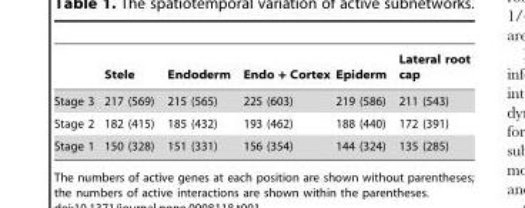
<table><thead><tr><td></td><td>Stele</td><td>Endoderm</td><td>Endo + Cortex</td><td>Epiderm</td><td>Lateral root cap</td></tr></thead><tbody><tr><td>Stage 3</td><td>217 (569)</td><td>215 (565)</td><td>225 (603)</td><td>219 (586)</td><td>211 (543)</td></tr><tr><td>Stage 2</td><td>182 (415)</td><td>185 (432)</td><td>193 (462)</td><td>188 (440)</td><td>172 (391)</td></tr><tr><td>Stage 1</td><td>150 (328)</td><td>151 (331)</td><td>156 (354)</td><td>144 (324)</td><td>135 (285)</td></tr></tbody></table>